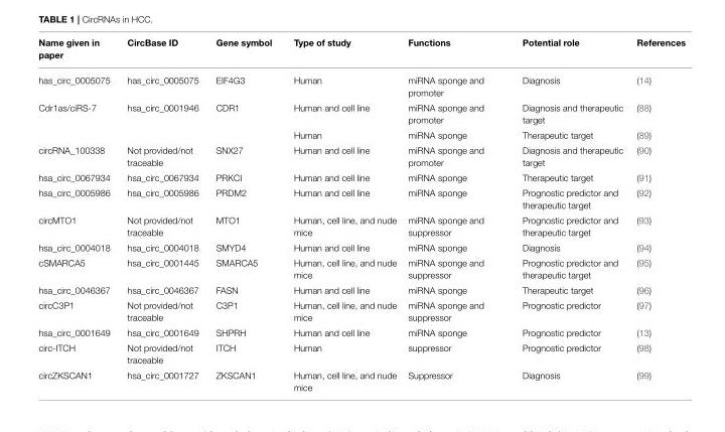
<table><thead><tr><td>Name given in paper</td><td>CircBase ID</td><td>Gene symbol</td><td>Type of study</td><td>Functions</td><td>Potential role</td><td>References</td></tr></thead><tbody><tr><td>has_circ_0005075</td><td>has_circ_0005075</td><td>EIF4G3</td><td>Human</td><td>miRNA sponge and promoter</td><td>Diagnosis</td><td>(14)</td></tr><tr><td rowspan="2">Cdr1as/ciRS-7</td><td>hsa_circ_0001946</td><td>CDR1</td><td>Human and cell line</td><td>miRNA sponge and promoter</td><td>Diagnosis and therapeutic target</td><td>(88)</td></tr><tr><td></td><td></td><td>Human</td><td>miRNA sponge</td><td>Therapeutic target</td><td>(89)</td></tr><tr><td>circRNA_100338</td><td>Not provided/not traceable</td><td>SNX27</td><td>Human and cell line</td><td>miRNA sponge and promoter</td><td>Diagnosis and therapeutic target</td><td>(90)</td></tr><tr><td>hsa_circ_0067934</td><td>hsa_circ_0067934</td><td>PRKCI</td><td>Human and cell line</td><td>miRNA sponge</td><td>Therapeutic target</td><td>(91)</td></tr><tr><td>hsa_circ_0005986</td><td>hsa_circ_0005986</td><td>PRDM2</td><td>Human and cell line</td><td>miRNA sponge</td><td>Prognostic predictor and therapeutic target</td><td>(92)</td></tr><tr><td>circMTO1</td><td>Not provided/not traceable</td><td>MTO1</td><td>Human, cell line, and nude mice</td><td>miRNA sponge and suppressor</td><td>Prognostic predictor and therapeutic target</td><td>(93)</td></tr><tr><td>hsa_circ_0004018</td><td>hsa_circ_0004018</td><td>SMYD4</td><td>Human and cell line</td><td>miRNA sponge</td><td>Diagnosis</td><td>(94)</td></tr><tr><td>cSMARCA5</td><td>hsa_circ_0001445</td><td>SMARCA5</td><td>Human, cell line, and nude mice</td><td>miRNA sponge and suppressor</td><td>Prognostic predictor and therapeutic target</td><td>(95)</td></tr><tr><td>hsa_circ_0046367</td><td>hsa_circ_0046367</td><td>FASN</td><td>Human and cell line</td><td>miRNA sponge</td><td>Therapeutic target</td><td>(96)</td></tr><tr><td>circC3P1</td><td>Not provided/not traceable</td><td>C3P1</td><td>Human, cell line, and nude mice</td><td>miRNA sponge and suppressor</td><td>Prognostic predictor</td><td>(97)</td></tr><tr><td>hsa_circ_0001649</td><td>hsa_circ_0001649</td><td>SHPRH</td><td>Human and cell line</td><td>miRNA sponge</td><td>Prognostic predictor</td><td>(13)</td></tr><tr><td>circ-ITCH</td><td>Not provided/not traceable</td><td>ITCH</td><td>Human</td><td>suppressor</td><td>Prognostic predictor</td><td>(98)</td></tr><tr><td>circZKSCAN1</td><td>hsa_circ_0001727</td><td>ZKSCAN1</td><td>Human, cell line, and nude mice</td><td>Suppressor</td><td>Diagnosis</td><td>(99)</td></tr></tbody></table>